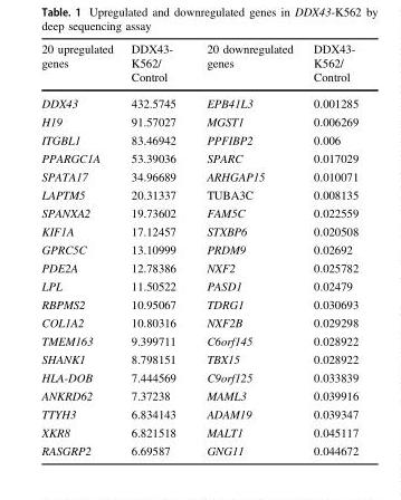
<table><thead><tr><td>20 upregulated genes</td><td>DDX43- K562/ Control</td><td>20 downregulated genes</td><td>DDX43- K562/ Control</td></tr></thead><tbody><tr><td>DDX43</td><td>432.5745</td><td>EPB41L3</td><td>0.001285</td></tr><tr><td>H19</td><td>91.57027</td><td>MGST1</td><td>0.006269</td></tr><tr><td>ITGBL1</td><td>83.46942</td><td>PPFIBP2</td><td>0.006</td></tr><tr><td>PPARGC1A</td><td>53.39036</td><td>SPARC</td><td>0.017029</td></tr><tr><td>SPATA17</td><td>34.96689</td><td>ARHGAP15</td><td>0.010071</td></tr><tr><td>LAPTM5</td><td>20.31337</td><td>TUBA3C</td><td>0.008135</td></tr><tr><td>SPANXA2</td><td>19.73602</td><td>FAM5C</td><td>0.022559</td></tr><tr><td>KIF1A</td><td>17.12457</td><td>STXBP6</td><td>0.020508</td></tr><tr><td>GPRC5C</td><td>13.10999</td><td>PRDM9</td><td>0.02692</td></tr><tr><td>PDE2A</td><td>12.78386</td><td>NXF2</td><td>0.025782</td></tr><tr><td>LPL</td><td>11.50522</td><td>PASD1</td><td>0.02479</td></tr><tr><td>RBPMS2</td><td>10.95067</td><td>TDRG1</td><td>0.030693</td></tr><tr><td>COL1A2</td><td>10.80316</td><td>NXF2B</td><td>0.029298</td></tr><tr><td>TMEM163</td><td>9.399711</td><td>C6orf145</td><td>0.028922</td></tr><tr><td>SHANK1</td><td>8.798151</td><td>TBX15</td><td>0.028922</td></tr><tr><td>HLA-DOB</td><td>7.444569</td><td>C9orf125</td><td>0.033839</td></tr><tr><td>ANKRD62</td><td>7.37238</td><td>MAML3</td><td>0.039916</td></tr><tr><td>TTYH3</td><td>6.834143</td><td>ADAM19</td><td>0.039347</td></tr><tr><td>XKR8</td><td>6.821518</td><td>MALT1</td><td>0.045117</td></tr><tr><td>RASGRP2</td><td>6.69587</td><td>GNG11</td><td>0.044672</td></tr></tbody></table>